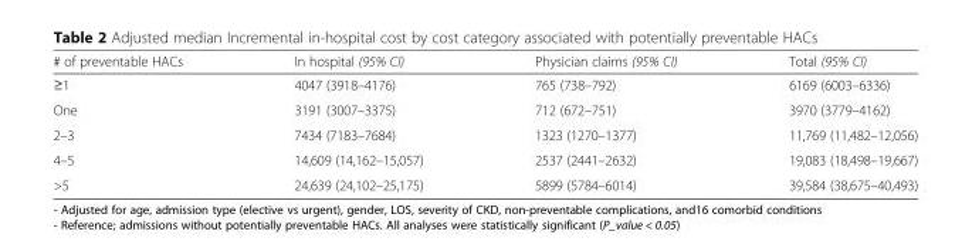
<table><thead><tr><td># of preventable HACs</td><td>In hospital (95% CI)</td><td>Physician claims (95% CI)</td><td>Total (95% CI)</td></tr></thead><tbody><tr><td>≥1</td><td>4047 (3918–4176)</td><td>765 (738–792)</td><td>6169 (6003–6336)</td></tr><tr><td>One</td><td>3191 (3007–3375)</td><td>712 (672–751)</td><td>3970 (3779–4162)</td></tr><tr><td>2–3</td><td>7434 (7183–7684)</td><td>1323 (1270–1377)</td><td>11,769 (11,482–12,056)</td></tr><tr><td>4–5</td><td>14,609 (14,162–15,057)</td><td>2537 (2441–2632)</td><td>19,083 (18,498–19,667)</td></tr><tr><td>&gt;5</td><td>24,639 (24,102–25,175)</td><td>5899 (5784–6014)</td><td>39,584 (38,675–40,493)</td></tr></tbody></table>